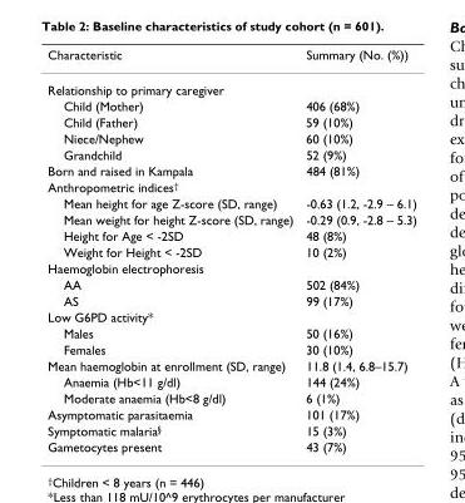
<table><thead><tr><td>Characteristic</td><td>Summary (No. (%))</td></tr></thead><tbody><tr><td colspan="2">Relationship to primary caregiver</td></tr><tr><td>Child (Mother)</td><td>406 (68%)</td></tr><tr><td>Child (Father)</td><td>59 (10%)</td></tr><tr><td>Niece/Nephew</td><td>60 (10%)</td></tr><tr><td>Grandchild</td><td>52 (9%)</td></tr><tr><td>Born and raised in Kampala</td><td>484 (81%)</td></tr><tr><td colspan="2">Anthropometric indices<sup>†</sup></td></tr><tr><td>Mean height for age Z-score (SD, range)</td><td>-0.63 (1.2, -2.9 – 6.1)</td></tr><tr><td>Mean weight for height Z-score (SD, range)</td><td>-0.29 (0.9, -2.8 – 5.3)</td></tr><tr><td>Height for Age &lt; -2SD</td><td>48 (8%)</td></tr><tr><td>Weight for Height &lt; -2SD</td><td>10 (2%)</td></tr><tr><td colspan="2">Haemoglobin electrophoresis</td></tr><tr><td>AA</td><td>502 (84%)</td></tr><tr><td>AS</td><td>99 (17%)</td></tr><tr><td colspan="2">Low G6PD activity*</td></tr><tr><td>Males</td><td>50 (16%)</td></tr><tr><td>Females</td><td>30 (10%)</td></tr><tr><td>Mean haemoglobin at enrollment (SD, range)</td><td>11.8 (1.4, 6.8–15.7)</td></tr><tr><td>Anaemia (Hb&lt;11 g/dl)</td><td>144 (24%)</td></tr><tr><td>Moderate anaemia (Hb&lt;8 g/dl)</td><td>6 (1%)</td></tr><tr><td>Asymptomatic parasitaemia</td><td>101 (17%)</td></tr><tr><td>Symptomatic malaria<sup>§</sup></td><td>15 (3%)</td></tr><tr><td>Gametocytes present</td><td>43 (7%)</td></tr></tbody></table>